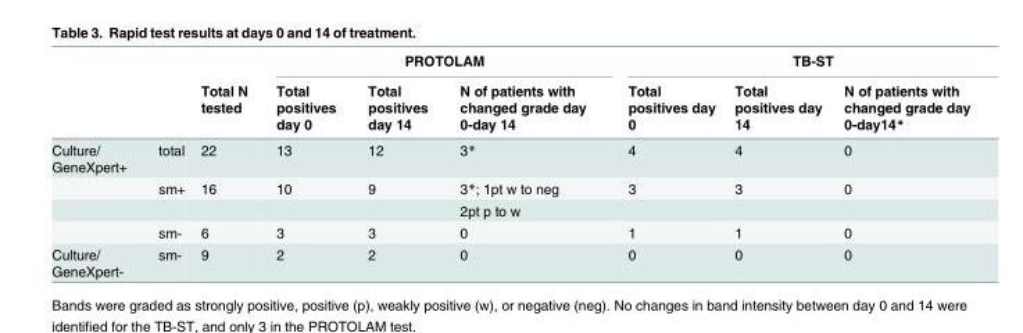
<table><thead><tr><td rowspan="2"></td><td rowspan="2"></td><td rowspan="2">Total N tested</td><td colspan="3">PROTOLAM</td><td colspan="3">TB-ST</td></tr><tr><td>Total positives day 0</td><td>Total positives day 14</td><td>N of patients with changed grade day 0-day 14</td><td>Total positives day 0</td><td>Total positives day 14</td><td>N of patients with changed grade day 0-day14*</td></tr></thead><tbody><tr><td rowspan="4">Culture/ GeneXpert+</td><td>total</td><td>22</td><td>13</td><td>12</td><td>3*</td><td>4</td><td>4</td><td>0</td></tr><tr><td>sm+</td><td>16</td><td>10</td><td>9</td><td>3*; 1pt w to neg</td><td>3</td><td>3</td><td>0</td></tr><tr><td></td><td></td><td></td><td></td><td>2pt p to w</td><td></td><td></td><td></td></tr><tr><td>sm-</td><td>6</td><td>3</td><td>3</td><td>0</td><td>1</td><td>1</td><td>0</td></tr><tr><td>Culture/ GeneXpert-</td><td>sm-</td><td>9</td><td>2</td><td>2</td><td>0</td><td>0</td><td>0</td><td>0</td></tr></tbody></table>